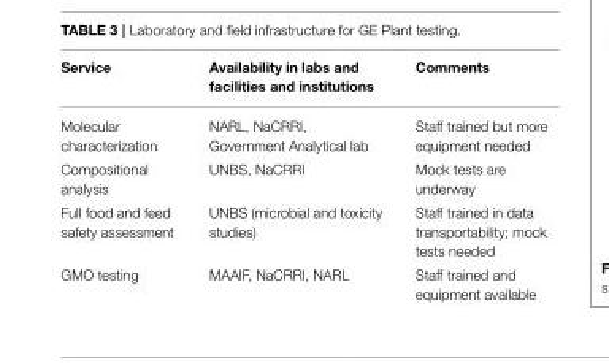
<table><thead><tr><td>Service</td><td>Availability in labs and facilities and institutions</td><td>Comments</td></tr></thead><tbody><tr><td>Molecular characterization</td><td>NARL, NaCRRI, Government Analytical lab</td><td>Staff trained but more equipment needed</td></tr><tr><td>Compositional analysis</td><td>UNBS, NaCRRI</td><td>Mock tests are underway</td></tr><tr><td>Full food and feed safety assessment</td><td>UNBS (microbial and toxicity studies)</td><td>Staff trained in data transportability; mock tests needed</td></tr><tr><td>GMO testing</td><td>MAAIF, NaCRRI, NARL</td><td>Staff trained and equipment available</td></tr></tbody></table>